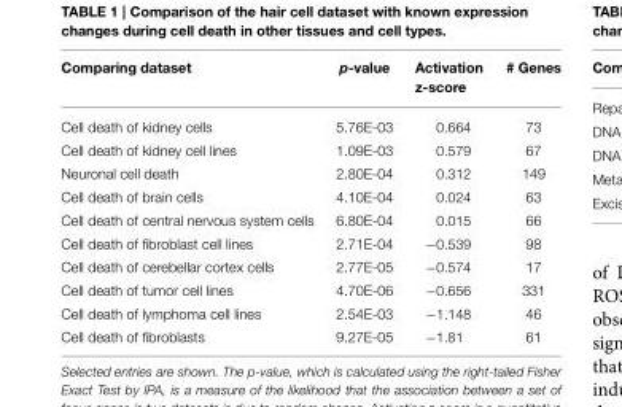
<table><thead><tr><td>Comparing dataset</td><td>p-value</td><td>Activation z-score</td><td># Genes</td></tr></thead><tbody><tr><td>Cell death of kidney cells</td><td>5.76E-03</td><td>0.664</td><td>73</td></tr><tr><td>Cell death of kidney cell lines</td><td>1.09E-03</td><td>0.579</td><td>67</td></tr><tr><td>Neuronal cell death</td><td>2.80E-04</td><td>0.312</td><td>149</td></tr><tr><td>Cell death of brain cells</td><td>4.10E-04</td><td>0.024</td><td>63</td></tr><tr><td>Cell death of central nervous system cells</td><td>6.80E-04</td><td>0.015</td><td>66</td></tr><tr><td>Cell death of fibroblast cell lines</td><td>2.71E-04</td><td>−0.539</td><td>98</td></tr><tr><td>Cell death of cerebellar cortex cells</td><td>2.77E-05</td><td>−0.574</td><td>17</td></tr><tr><td>Cell death of tumor cell lines</td><td>4.70E-06</td><td>−0.656</td><td>331</td></tr><tr><td>Cell death of lymphoma cell lines</td><td>2.54E-03</td><td>−1.148</td><td>46</td></tr><tr><td>Cell death of fibroblasts</td><td>9.27E-05</td><td>−1.81</td><td>61</td></tr></tbody></table>